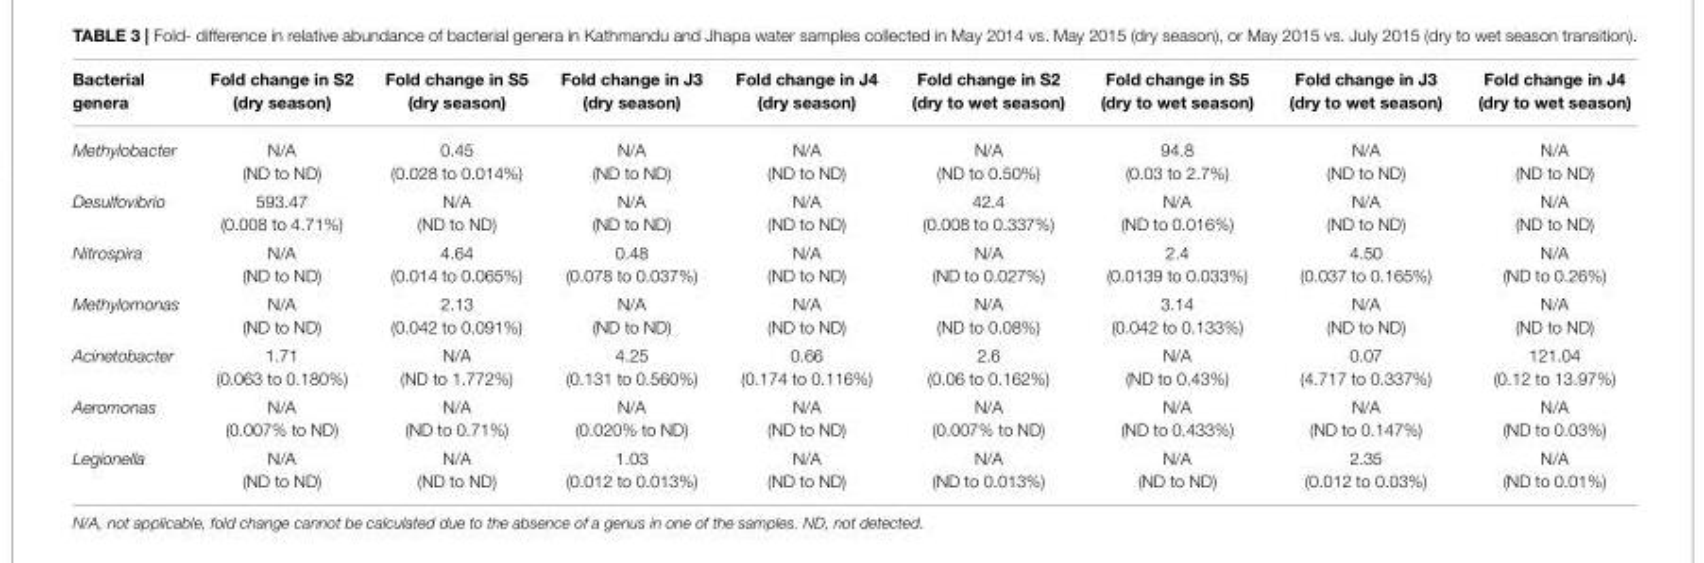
<table><thead><tr><td>Bacterial genera</td><td>Fold change in S2 (dry season)</td><td>Fold change in S5 (dry season)</td><td>Fold change in J3 (dry season)</td><td>Fold change in J4 (dry season)</td><td>Fold change in S2 (dry to wet season)</td><td>Fold change in S5 (dry to wet season)</td><td>Fold change in J3 (dry to wet season)</td><td>Fold change in J4 (dry to wet season)</td></tr></thead><tbody><tr><td>Methylobacter</td><td>N/A (ND to ND)</td><td>0.45 (0.028 to 0.014%)</td><td>N/A (ND to ND)</td><td>N/A (ND to ND)</td><td>N/A (ND to 0.50%)</td><td>94.8 (0.03 to 2.7%)</td><td>N/A (ND to ND)</td><td>N/A (ND to ND)</td></tr><tr><td>Desulfovibrio</td><td>593.47 (0.008 to 4.71%)</td><td>N/A (ND to ND)</td><td>N/A (ND to ND)</td><td>N/A (ND to ND)</td><td>42.4 (0.008 to 0.337%)</td><td>N/A (ND to 0.016%)</td><td>N/A (ND to ND)</td><td>N/A (ND to ND)</td></tr><tr><td>Nitrospira</td><td>N/A (ND to ND)</td><td>4.64 (0.014 to 0.065%)</td><td>0.48 (0.078 to 0.037%)</td><td>N/A (ND to ND)</td><td>N/A (ND to 0.027%)</td><td>2.4 (0.0139 to 0.033%)</td><td>4.50 (0.037 to 0.165%)</td><td>N/A (ND to 0.26%)</td></tr><tr><td>Methylomonas</td><td>N/A (ND to ND)</td><td>2.13 (0.042 to 0.091%)</td><td>N/A (ND to ND)</td><td>N/A (ND to ND)</td><td>N/A (ND to 0.08%)</td><td>3.14 (0.042 to 0.133%)</td><td>N/A (ND to ND)</td><td>N/A (ND to ND)</td></tr><tr><td>Acinetobacter</td><td>1.71 (0.063 to 0.180%)</td><td>N/A (ND to 1.772%)</td><td>4.25 (0.131 to 0.560%)</td><td>0.66 (0.174 to 0.116%)</td><td>2.6 (0.06 to 0.162%)</td><td>N/A (ND to 0.43%)</td><td>0.07 (4.717 to 0.337%)</td><td>121.04 (0.12 to 13.97%)</td></tr><tr><td>Aeromonas</td><td>N/A (0.007% to ND)</td><td>N/A (ND to 0.71%)</td><td>N/A (0.020% to ND)</td><td>N/A (ND to ND)</td><td>N/A (0.007% to ND)</td><td>N/A (ND to 0.433%)</td><td>N/A (ND to 0.147%)</td><td>N/A (ND to 0.03%)</td></tr><tr><td>Legionella</td><td>N/A (ND to ND)</td><td>N/A (ND to ND)</td><td>1.03 (0.012 to 0.013%)</td><td>N/A (ND to ND)</td><td>N/A (ND to 0.013%)</td><td>N/A (ND to ND)</td><td>2.35 (0.012 to 0.03%)</td><td>N/A (ND to 0.01%)</td></tr></tbody></table>